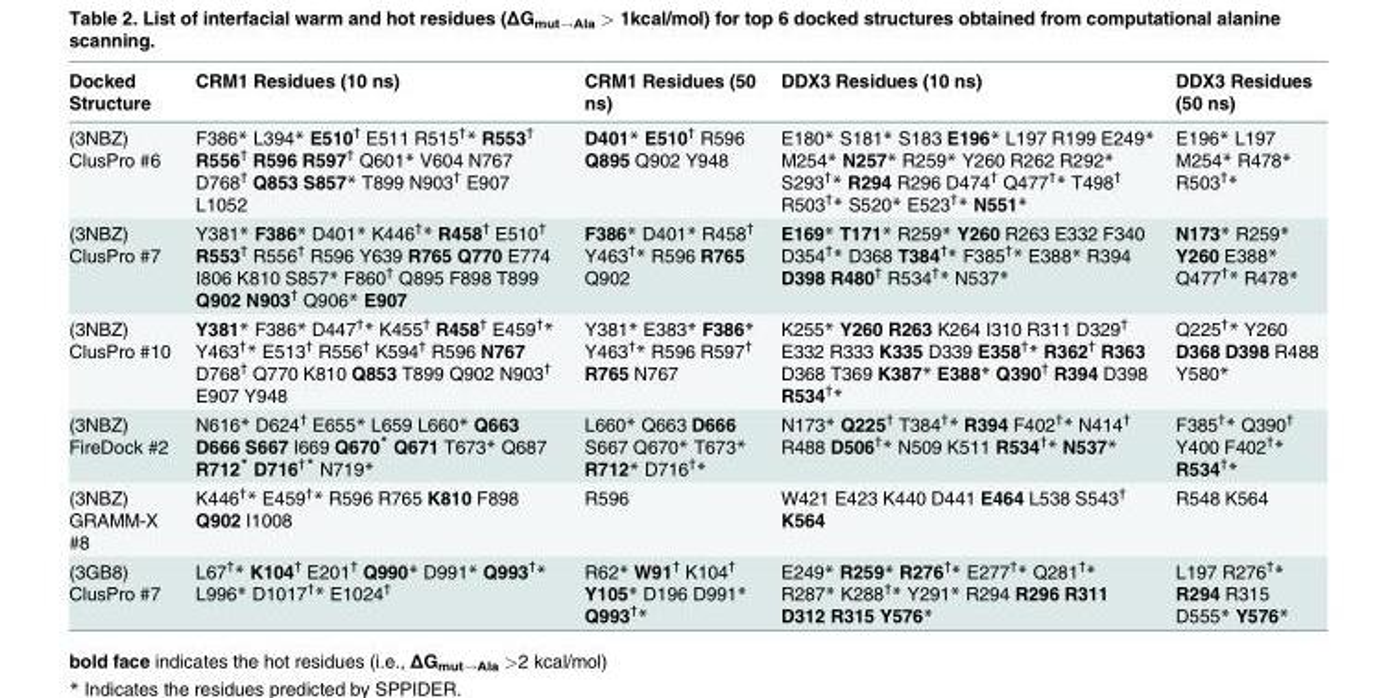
<table><thead><tr><td>Docked Structure</td><td>CRM1 Residues (10 ns)</td><td>CRM1 Residues (50 ns)</td><td>DDX3 Residues (10 ns)</td><td>DDX3 Residues (50 ns)</td></tr></thead><tbody><tr><td>(3NBZ) ClusPro #6</td><td>F386* L394* E510<sup>†</sup> E511 R515<sup>†</sup>* R553<sup>†</sup> R556<sup>†</sup> R596 R597<sup>†</sup> Q601* V604 N767 D768<sup>†</sup> Q853 S857* T899 N903<sup>†</sup> E907 L1052</td><td>D401* E510<sup>†</sup> R596 Q895 Q902 Y948</td><td>E180* S181* S183 E196* L197 R199 E249* M254* N257* R259* Y260 R262 R292* S293<sup>†</sup>* R294 R296 D474<sup>†</sup> Q477<sup>†</sup>* T498<sup>†</sup> R503<sup>†</sup>* S520* E523<sup>†</sup>* N551*</td><td>E196* L197 M254* R478* R503<sup>†</sup>*</td></tr><tr><td>(3NBZ) ClusPro #7</td><td>Y381* F386* D401* K446<sup>†</sup>* R458<sup>†</sup> E510<sup>†</sup> R553<sup>†</sup> R556<sup>†</sup> R596 Y639 R765 Q770 E774 I806 K810 S857* F860<sup>†</sup> Q895 F898 T899 Q902 N903<sup>†</sup> Q906* E907</td><td>F386* D401* R458<sup>†</sup> Y463<sup>†</sup>* R596 R765 Q902</td><td>E169* T171* R259* Y260 R263 E332 F340 D354<sup>†</sup>* D368 T384<sup>†</sup>* F385<sup>†</sup>* E388* R394 D398 R480<sup>†</sup> R534<sup>†</sup>* N537*</td><td>N173* R259* Y260 E388* Q477<sup>†</sup>* R478*</td></tr><tr><td>(3NBZ) ClusPro #10</td><td>Y381* F386* D447<sup>†</sup>* K455<sup>†</sup> R458<sup>†</sup> E459<sup>†</sup>* Y463<sup>†</sup>* E513<sup>†</sup> R556<sup>†</sup> K594<sup>†</sup> R596 N767 D768<sup>†</sup> Q770 K810 Q853 T899 Q902 N903<sup>†</sup> E907 Y948</td><td>Y381* E383* F386* Y463<sup>†</sup>* R596 R597<sup>†</sup> R765 N767</td><td>K255* Y260 R263 K264 I310 R311 D329<sup>†</sup> E332 R333 K335 D339 E358<sup>†</sup>* R362<sup>†</sup> R363 D368 T369 K387* E388* Q390<sup>†</sup> R394 D398 R534<sup>†</sup>*</td><td>Q225<sup>†</sup>* Y260 D368 D398 R488 Y580*</td></tr><tr><td>(3NBZ) FireDock #2</td><td>N616* D624<sup>†</sup> E655* L659 L660* Q663 D666 S667 I669 Q670* Q671 T673* Q687 R712* D716<sup>†*</sup> N719*</td><td>L660* Q663 D666 S667 Q670* T673* R712* D716<sup>†</sup>*</td><td>N173* Q225<sup>†</sup> T384<sup>†</sup>* R394 F402<sup>†</sup>* N414<sup>†</sup> R488 D506<sup>†</sup>* N509 K511 R534<sup>†</sup>* N537*</td><td>F385<sup>†</sup>* Q390<sup>†</sup> Y400 F402<sup>†</sup>* R534<sup>†</sup>*</td></tr><tr><td>(3NBZ) GRAMM-X #8</td><td>K446<sup>†</sup>* E459<sup>†</sup>* R596 R765 K810 F898 Q902 I1008</td><td>R596</td><td>W421 E423 K440 D441 E464 L538 S543<sup>†</sup> K564</td><td>R548 K564</td></tr><tr><td>(3GB8) ClusPro #7</td><td>L67<sup>†</sup>* K104<sup>†</sup> E201<sup>†</sup> Q990* D991* Q993<sup>†</sup>* L996* D1017<sup>†</sup>* E1024<sup>†</sup></td><td>R62* W91<sup>†</sup> K104<sup>†</sup> Y105* D196 D991* Q993<sup>†</sup>*</td><td>E249* R259* R276<sup>†</sup>* E277<sup>†</sup>* Q281<sup>†</sup>* R287* K288<sup>†</sup>* Y291* R294 R296 R311 D312 R315 Y576*</td><td>L197 R276<sup>†</sup>* R294 R315 D555* Y576*</td></tr></tbody></table>